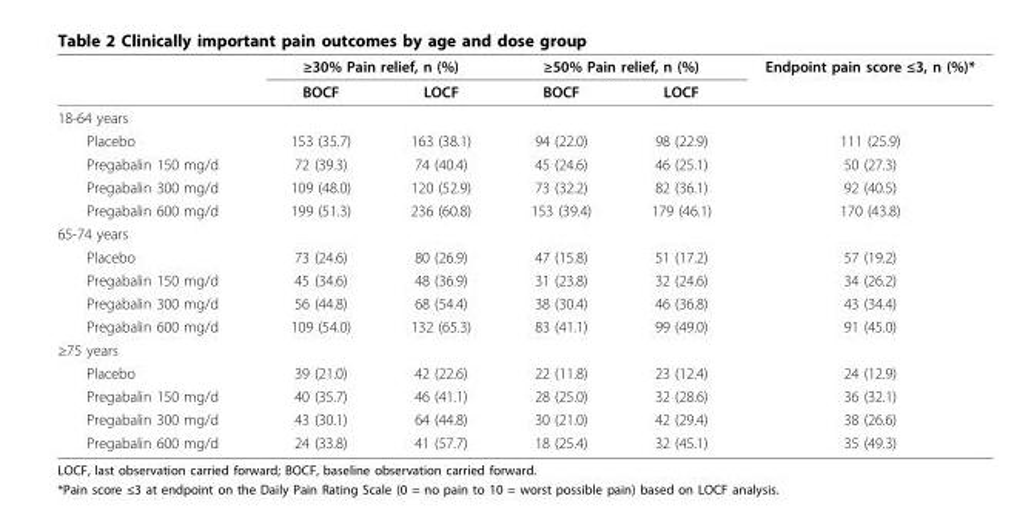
<table><thead><tr><td rowspan="2"></td><td colspan="2">≥30% Pain relief, n (%)</td><td colspan="2">≥50% Pain relief, n (%)</td><td rowspan="2">Endpoint pain score ≤3, n (%)*</td></tr><tr><td>BOCF</td><td>LOCF</td><td>BOCF</td><td>LOCF</td></tr></thead><tbody><tr><td colspan="6">18-64 years</td></tr><tr><td>Placebo</td><td>153 (35.7)</td><td>163 (38.1)</td><td>94 (22.0)</td><td>98 (22.9)</td><td>111 (25.9)</td></tr><tr><td>Pregabalin 150 mg/d</td><td>72 (39.3)</td><td>74 (40.4)</td><td>45 (24.6)</td><td>46 (25.1)</td><td>50 (27.3)</td></tr><tr><td>Pregabalin 300 mg/d</td><td>109 (48.0)</td><td>120 (52.9)</td><td>73 (32.2)</td><td>82 (36.1)</td><td>92 (40.5)</td></tr><tr><td>Pregabalin 600 mg/d</td><td>199 (51.3)</td><td>236 (60.8)</td><td>153 (39.4)</td><td>179 (46.1)</td><td>170 (43.8)</td></tr><tr><td colspan="6">65-74 years</td></tr><tr><td>Placebo</td><td>73 (24.6)</td><td>80 (26.9)</td><td>47 (15.8)</td><td>51 (17.2)</td><td>57 (19.2)</td></tr><tr><td>Pregabalin 150 mg/d</td><td>45 (34.6)</td><td>48 (36.9)</td><td>31 (23.8)</td><td>32 (24.6)</td><td>34 (26.2)</td></tr><tr><td>Pregabalin 300 mg/d</td><td>56 (44.8)</td><td>68 (54.4)</td><td>38 (30.4)</td><td>46 (36.8)</td><td>43 (34.4)</td></tr><tr><td>Pregabalin 600 mg/d</td><td>109 (54.0)</td><td>132 (65.3)</td><td>83 (41.1)</td><td>99 (49.0)</td><td>91 (45.0)</td></tr><tr><td colspan="6">≥75 years</td></tr><tr><td>Placebo</td><td>39 (21.0)</td><td>42 (22.6)</td><td>22 (11.8)</td><td>23 (12.4)</td><td>24 (12.9)</td></tr><tr><td>Pregabalin 150 mg/d</td><td>40 (35.7)</td><td>46 (41.1)</td><td>28 (25.0)</td><td>32 (28.6)</td><td>36 (32.1)</td></tr><tr><td>Pregabalin 300 mg/d</td><td>43 (30.1)</td><td>64 (44.8)</td><td>30 (21.0)</td><td>42 (29.4)</td><td>38 (26.6)</td></tr><tr><td>Pregabalin 600 mg/d</td><td>24 (33.8)</td><td>41 (57.7)</td><td>18 (25.4)</td><td>32 (45.1)</td><td>35 (49.3)</td></tr></tbody></table>